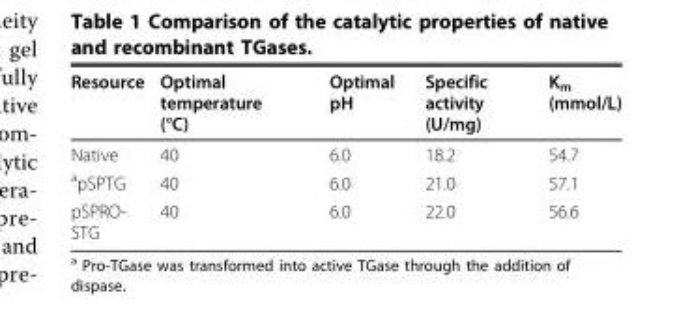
<table><tbody><tr><td>Resource</td><td>Optimal temperature (°C)</td><td>Optimal pH</td><td>Specific activity (U/mg)</td><td>K<sub>m</sub> (mmol/L)</td></tr><tr><td>Native</td><td>40</td><td>6.0</td><td>18.2</td><td>54.7</td></tr><tr><td><sup>a</sup>pSPTG</td><td>40</td><td>6.0</td><td>21.0</td><td>57.1</td></tr><tr><td>pSPRO- STG</td><td>40</td><td>6.0</td><td>22.0</td><td>56.6</td></tr></tbody></table>